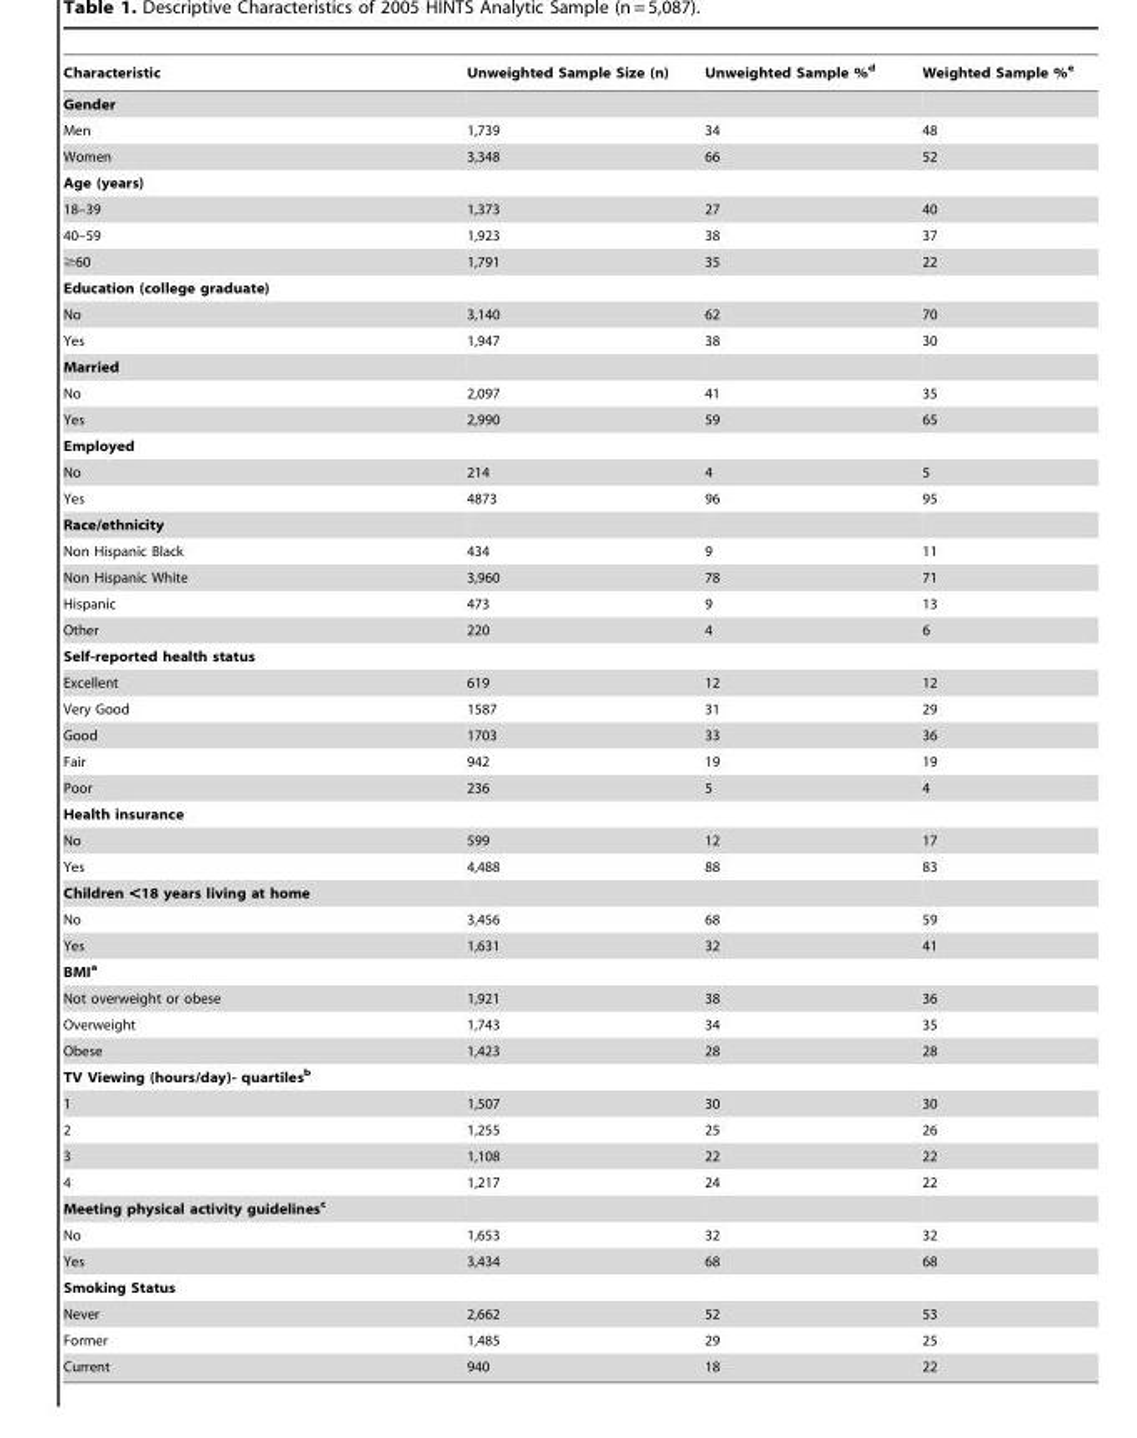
<table><thead><tr><td>Characteristic</td><td>Unweighted Sample Size (n)</td><td>Unweighted Sample %<sup>d</sup></td><td>Weighted Sample %<sup>e</sup></td></tr></thead><tbody><tr><td colspan="4">Gender</td></tr><tr><td>Men</td><td>1,739</td><td>34</td><td>48</td></tr><tr><td>Women</td><td>3,348</td><td>66</td><td>52</td></tr><tr><td colspan="4">Age (years)</td></tr><tr><td>18–39</td><td>1,373</td><td>27</td><td>40</td></tr><tr><td>40–59</td><td>1,923</td><td>38</td><td>37</td></tr><tr><td>≥60</td><td>1,791</td><td>35</td><td>22</td></tr><tr><td colspan="4">Education (college graduate)</td></tr><tr><td>No</td><td>3,140</td><td>62</td><td>70</td></tr><tr><td>Yes</td><td>1,947</td><td>38</td><td>30</td></tr><tr><td colspan="4">Married</td></tr><tr><td>No</td><td>2,097</td><td>41</td><td>35</td></tr><tr><td>Yes</td><td>2,990</td><td>59</td><td>65</td></tr><tr><td colspan="4">Employed</td></tr><tr><td>No</td><td>214</td><td>4</td><td>5</td></tr><tr><td>Yes</td><td>4873</td><td>96</td><td>95</td></tr><tr><td colspan="4">Race/ethnicity</td></tr><tr><td>Non Hispanic Black</td><td>434</td><td>9</td><td>11</td></tr><tr><td>Non Hispanic White</td><td>3,960</td><td>78</td><td>71</td></tr><tr><td>Hispanic</td><td>473</td><td>9</td><td>13</td></tr><tr><td>Other</td><td>220</td><td>4</td><td>6</td></tr><tr><td colspan="4">Self-reported health status</td></tr><tr><td>Excellent</td><td>619</td><td>12</td><td>12</td></tr><tr><td>Very Good</td><td>1587</td><td>31</td><td>29</td></tr><tr><td>Good</td><td>1703</td><td>33</td><td>36</td></tr><tr><td>Fair</td><td>942</td><td>19</td><td>19</td></tr><tr><td>Poor</td><td>236</td><td>5</td><td>4</td></tr><tr><td colspan="4">Health insurance</td></tr><tr><td>No</td><td>599</td><td>12</td><td>17</td></tr><tr><td>Yes</td><td>4,488</td><td>88</td><td>83</td></tr><tr><td colspan="4">Children &lt;18 years living at home</td></tr><tr><td>No</td><td>3,456</td><td>68</td><td>59</td></tr><tr><td>Yes</td><td>1,631</td><td>32</td><td>41</td></tr><tr><td colspan="4">BMIa</td></tr><tr><td>Not overweight or obese</td><td>1,921</td><td>38</td><td>36</td></tr><tr><td>Overweight</td><td>1,743</td><td>34</td><td>35</td></tr><tr><td>Obese</td><td>1,423</td><td>28</td><td>28</td></tr><tr><td colspan="4">TV Viewing (hours/day)- quartilesb</td></tr><tr><td>1</td><td>1,507</td><td>30</td><td>30</td></tr><tr><td>2</td><td>1,255</td><td>25</td><td>26</td></tr><tr><td>3</td><td>1,108</td><td>22</td><td>22</td></tr><tr><td>4</td><td>1,217</td><td>24</td><td>22</td></tr><tr><td colspan="4">Meeting physical activity guidelinesc</td></tr><tr><td>No</td><td>1,653</td><td>32</td><td>32</td></tr><tr><td>Yes</td><td>3,434</td><td>68</td><td>68</td></tr><tr><td colspan="4">Smoking Status</td></tr><tr><td>Never</td><td>2,662</td><td>52</td><td>53</td></tr><tr><td>Former</td><td>1,485</td><td>29</td><td>25</td></tr><tr><td>Current</td><td>940</td><td>18</td><td>22</td></tr></tbody></table>